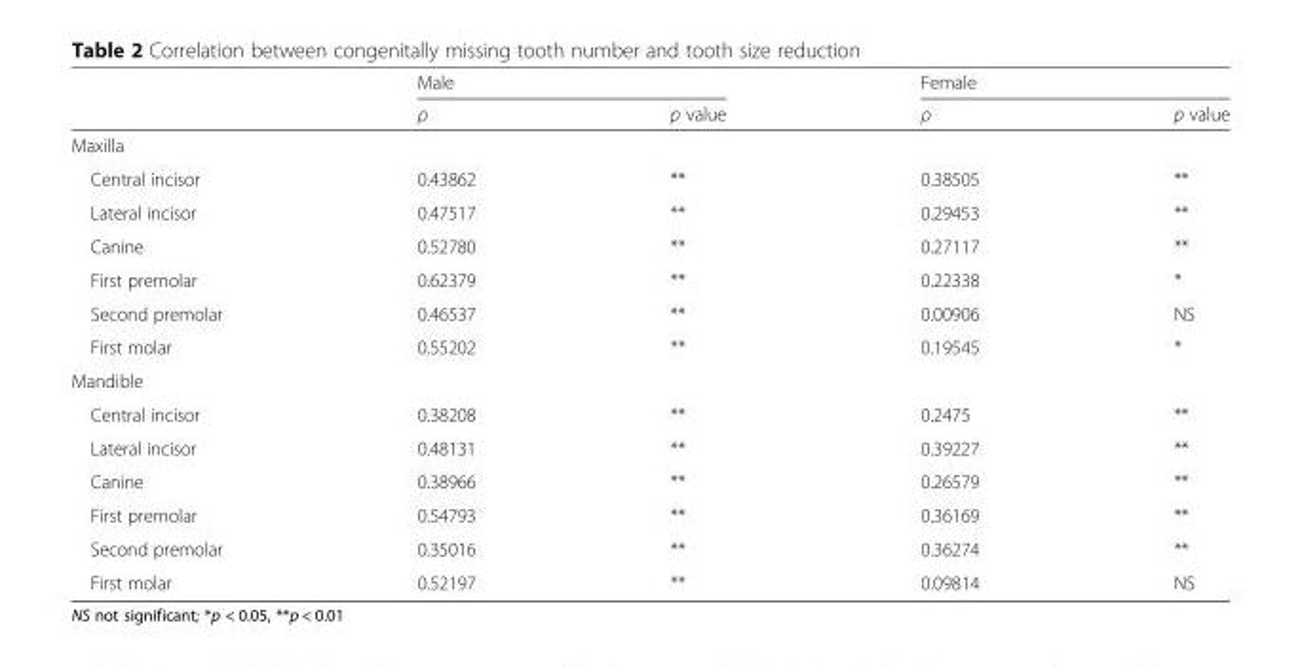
<table><thead><tr><td rowspan="2"></td><td colspan="2">Male</td><td colspan="2">Female</td></tr><tr><td>ρ</td><td>p value</td><td>ρ</td><td>p value</td></tr></thead><tbody><tr><td colspan="5">Maxilla</td></tr><tr><td>Central incisor</td><td>0.43862</td><td>**</td><td>0.38505</td><td>**</td></tr><tr><td>Lateral incisor</td><td>0.47517</td><td>**</td><td>0.29453</td><td>**</td></tr><tr><td>Canine</td><td>0.52780</td><td>**</td><td>0.27117</td><td>**</td></tr><tr><td>First premolar</td><td>0.62379</td><td>**</td><td>0.22338</td><td>*</td></tr><tr><td>Second premolar</td><td>0.46537</td><td>**</td><td>0.00906</td><td>NS</td></tr><tr><td>First molar</td><td>0.55202</td><td>**</td><td>0.19545</td><td>*</td></tr><tr><td colspan="5">Mandible</td></tr><tr><td>Central incisor</td><td>0.38208</td><td>**</td><td>0.2475</td><td>**</td></tr><tr><td>Lateral incisor</td><td>0.48131</td><td>**</td><td>0.39227</td><td>**</td></tr><tr><td>Canine</td><td>0.38966</td><td>**</td><td>0.26579</td><td>**</td></tr><tr><td>First premolar</td><td>0.54793</td><td>**</td><td>0.36169</td><td>**</td></tr><tr><td>Second premolar</td><td>0.35016</td><td>**</td><td>0.36274</td><td>**</td></tr><tr><td>First molar</td><td>0.52197</td><td>**</td><td>0.09814</td><td>NS</td></tr></tbody></table>